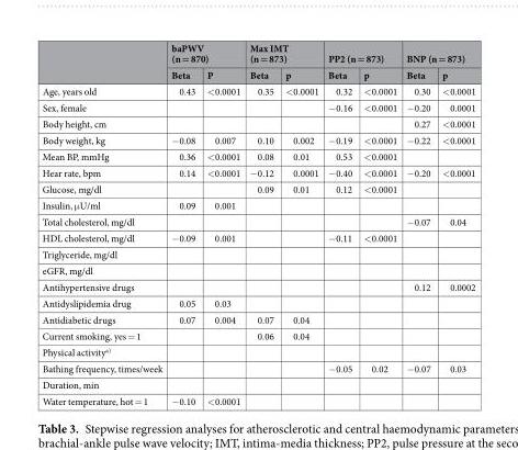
<table><thead><tr><td rowspan="2"></td><td colspan="2">baPWV (n = 870)</td><td colspan="2">Max IMT (n = 873)</td><td colspan="2">PP2 (n = 873)</td><td colspan="2">BNP (n = 873)</td></tr><tr><td>Beta</td><td>P</td><td>Beta</td><td>p</td><td>Beta</td><td>p</td><td>Beta</td><td>p</td></tr></thead><tbody><tr><td>Age, years old</td><td>0.43</td><td>&lt;0.0001</td><td>0.35</td><td>&lt;0.0001</td><td>0.32</td><td>&lt;0.0001</td><td>0.30</td><td>&lt;0.0001</td></tr><tr><td>Sex, female</td><td></td><td></td><td></td><td></td><td>−0.16</td><td>&lt;0.0001</td><td>−0.20</td><td>0.0001</td></tr><tr><td>Body height, cm</td><td></td><td></td><td></td><td></td><td></td><td></td><td>0.27</td><td>&lt;0.0001</td></tr><tr><td>Body weight, kg</td><td>−0.08</td><td>0.007</td><td>0.10</td><td>0.002</td><td>−0.19</td><td>&lt;0.0001</td><td>−0.22</td><td>&lt;0.0001</td></tr><tr><td>Mean BP, mmHg</td><td>0.36</td><td>&lt;0.0001</td><td>0.08</td><td>0.01</td><td>0.53</td><td>&lt;0.0001</td><td></td><td></td></tr><tr><td>Hear rate, bpm</td><td>0.14</td><td>&lt;0.0001</td><td>−0.12</td><td>0.0001</td><td>−0.40</td><td>&lt;0.0001</td><td>−0.20</td><td>&lt;0.0001</td></tr><tr><td>Glucose, mg/dl</td><td></td><td></td><td>0.09</td><td>0.01</td><td>0.12</td><td>&lt;0.0001</td><td></td><td></td></tr><tr><td>Insulin, μU/ml</td><td>0.09</td><td>0.001</td><td></td><td></td><td></td><td></td><td></td><td></td></tr><tr><td>Total cholesterol, mg/dl</td><td></td><td></td><td></td><td></td><td></td><td></td><td>−0.07</td><td>0.04</td></tr><tr><td>HDL cholesterol, mg/dl</td><td>−0.09</td><td>0.001</td><td></td><td></td><td>−0.11</td><td>&lt;0.0001</td><td></td><td></td></tr><tr><td colspan="9">Triglyceride, mg/dl</td></tr><tr><td colspan="9">eGFR, mg/dl</td></tr><tr><td>Antihypertensive drugs</td><td></td><td></td><td></td><td></td><td></td><td></td><td>0.12</td><td>0.0002</td></tr><tr><td>Antidyslipidemia drug</td><td>0.05</td><td>0.03</td><td></td><td></td><td></td><td></td><td></td><td></td></tr><tr><td>Antidiabetic drugs</td><td>0.07</td><td>0.004</td><td>0.07</td><td>0.04</td><td></td><td></td><td></td><td></td></tr><tr><td>Current smoking, yes = 1</td><td></td><td></td><td>0.06</td><td>0.04</td><td></td><td></td><td></td><td></td></tr><tr><td colspan="9">Physical activity<sup>a)</sup></td></tr><tr><td>Bathing frequency, times/week</td><td></td><td></td><td></td><td></td><td>−0.05</td><td>0.02</td><td>−0.07</td><td>0.03</td></tr><tr><td colspan="9">Duration, min</td></tr><tr><td>Water temperature, hot = 1</td><td>−0.10</td><td>&lt;0.0001</td><td></td><td></td><td></td><td></td><td></td><td></td></tr></tbody></table>